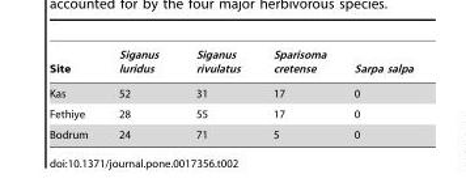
<table><thead><tr><td>Site</td><td>Siganus luridus</td><td>Siganus rivulatus</td><td>Sparisoma cretense</td><td>Sarpa salpa</td></tr></thead><tbody><tr><td>Kas</td><td>52</td><td>31</td><td>17</td><td>0</td></tr><tr><td>Fethiye</td><td>28</td><td>55</td><td>17</td><td>0</td></tr><tr><td>Bodrum</td><td>24</td><td>71</td><td>5</td><td>0</td></tr></tbody></table>